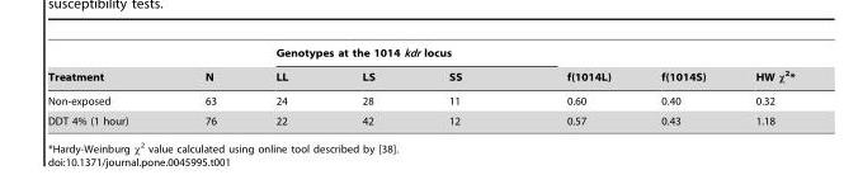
<table><thead><tr><td rowspan="2">Treatment</td><td rowspan="2">N</td><td colspan="3">Genotypes at the 1014 kdr locus</td><td rowspan="2">f(1014L)</td><td rowspan="2">f(1014S)</td><td rowspan="2">HW χ<sup>2</sup>*</td></tr><tr><td>LL</td><td>LS</td><td>SS</td></tr></thead><tbody><tr><td>Non-exposed</td><td>63</td><td>24</td><td>28</td><td>11</td><td>0.60</td><td>0.40</td><td>0.32</td></tr><tr><td>DDT 4% (1 hour)</td><td>76</td><td>22</td><td>42</td><td>12</td><td>0.57</td><td>0.43</td><td>1.18</td></tr></tbody></table>